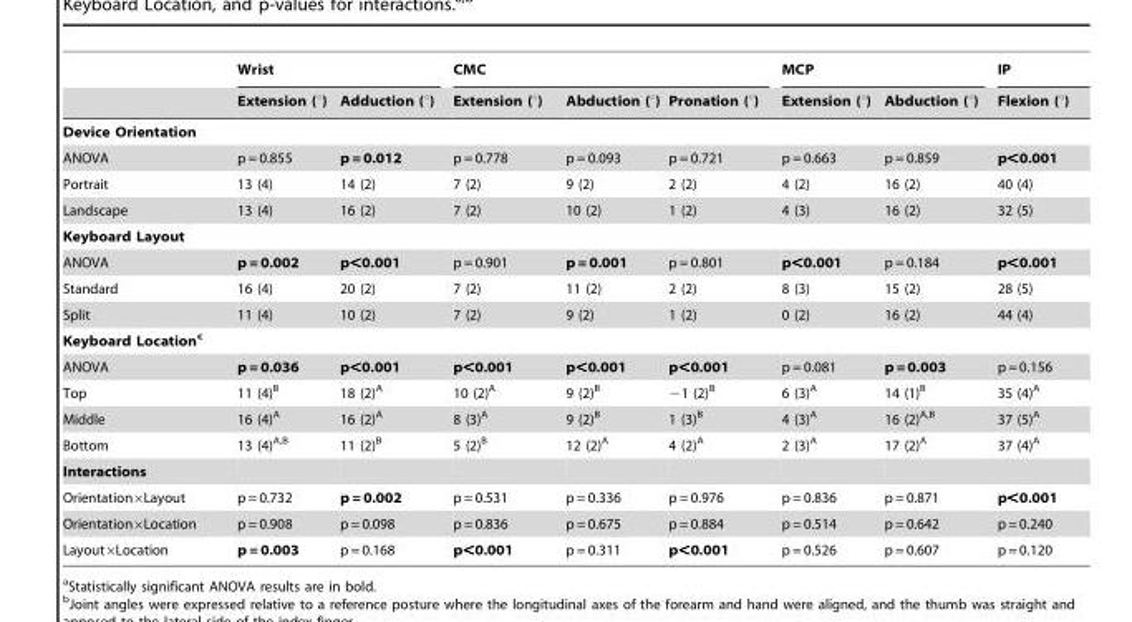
<table><thead><tr><td rowspan="2"></td><td colspan="2">Wrist</td><td colspan="3">CMC</td><td colspan="2">MCP</td><td rowspan="2">IP Flexion (°)</td></tr><tr><td>Extension (°)</td><td>Adduction (°)</td><td>Extension (°)</td><td>Abduction (°)</td><td>Pronation (°)</td><td>Extension (°)</td><td>Abduction (°)</td></tr></thead><tbody><tr><td colspan="9">Device Orientation</td></tr><tr><td>ANOVA</td><td>p = 0.855</td><td>p = 0.012</td><td>p = 0.778</td><td>p = 0.093</td><td>p = 0.721</td><td>p = 0.663</td><td>p = 0.859</td><td>p&lt;0.001</td></tr><tr><td>Portrait</td><td>13 (4)</td><td>14 (2)</td><td>7 (2)</td><td>9 (2)</td><td>2 (2)</td><td>4 (2)</td><td>16 (2)</td><td>40 (4)</td></tr><tr><td>Landscape</td><td>13 (4)</td><td>16 (2)</td><td>7 (2)</td><td>10 (2)</td><td>1 (2)</td><td>4 (3)</td><td>16 (2)</td><td>32 (5)</td></tr><tr><td colspan="9">Keyboard Layout</td></tr><tr><td>ANOVA</td><td>p = 0.002</td><td>p&lt;0.001</td><td>p = 0.901</td><td>p = 0.001</td><td>p = 0.801</td><td>p&lt;0.001</td><td>p = 0.184</td><td>p&lt;0.001</td></tr><tr><td>Standard</td><td>16 (4)</td><td>20 (2)</td><td>7 (2)</td><td>11 (2)</td><td>2 (2)</td><td>8 (3)</td><td>15 (2)</td><td>28 (5)</td></tr><tr><td>Split</td><td>11 (4)</td><td>10 (2)</td><td>7 (2)</td><td>9 (2)</td><td>1 (2)</td><td>0 (2)</td><td>16 (2)</td><td>44 (4)</td></tr><tr><td colspan="9">Keyboard Locationc</td></tr><tr><td>ANOVA</td><td>p = 0.036</td><td>p&lt;0.001</td><td>p&lt;0.001</td><td>p&lt;0.001</td><td>p&lt;0.001</td><td>p = 0.081</td><td>p = 0.003</td><td>p = 0.156</td></tr><tr><td>Top</td><td>11 (4)<sup>B</sup></td><td>18 (2)<sup>A</sup></td><td>10 (2)<sup>A</sup></td><td>9 (2)<sup>B</sup></td><td>−1 (2)<sup>B</sup></td><td>6 (3)<sup>A</sup></td><td>14 (1)<sup>B</sup></td><td>35 (4)<sup>A</sup></td></tr><tr><td>Middle</td><td>16 (4)<sup>A</sup></td><td>16 (2)<sup>A</sup></td><td>8 (3)<sup>A</sup></td><td>9 (2)<sup>B</sup></td><td>1 (3)<sup>B</sup></td><td>4 (3)<sup>A</sup></td><td>16 (2)<sup>A,B</sup></td><td>37 (5)<sup>A</sup></td></tr><tr><td>Bottom</td><td>13 (4)<sup>A,B</sup></td><td>11 (2)<sup>B</sup></td><td>5 (2)<sup>B</sup></td><td>12 (2)<sup>A</sup></td><td>4 (2)<sup>A</sup></td><td>2 (3)<sup>A</sup></td><td>17 (2)<sup>A</sup></td><td>37 (4)<sup>A</sup></td></tr><tr><td colspan="9">Interactions</td></tr><tr><td>Orientation×Layout</td><td>p = 0.732</td><td>p = 0.002</td><td>p = 0.531</td><td>p = 0.336</td><td>p = 0.976</td><td>p = 0.836</td><td>p = 0.871</td><td>p&lt;0.001</td></tr><tr><td>Orientation×Location</td><td>p = 0.908</td><td>p = 0.098</td><td>p = 0.836</td><td>p = 0.675</td><td>p = 0.884</td><td>p = 0.514</td><td>p = 0.642</td><td>p = 0.240</td></tr><tr><td>Layout×Location</td><td>p = 0.003</td><td>p = 0.168</td><td>p&lt;0.001</td><td>p = 0.311</td><td>p&lt;0.001</td><td>p = 0.526</td><td>p = 0.607</td><td>p = 0.120</td></tr></tbody></table>